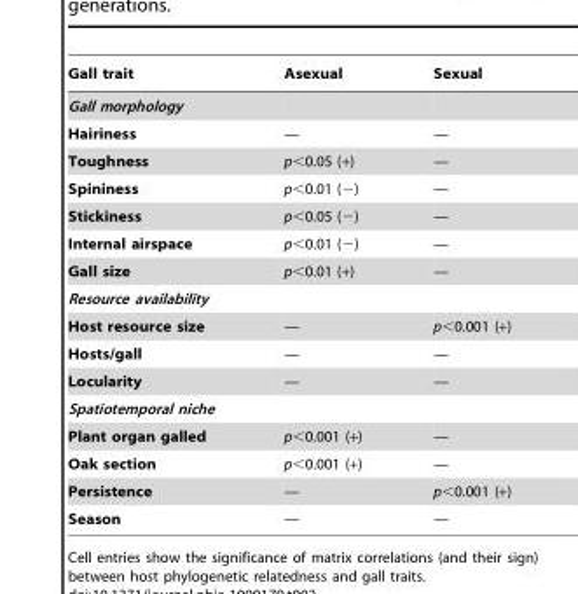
<table><thead><tr><td>Gall trait</td><td>Asexual</td><td>Sexual</td></tr></thead><tbody><tr><td colspan="3">Gall morphology</td></tr><tr><td>Hairiness</td><td>—</td><td>—</td></tr><tr><td>Toughness</td><td>p&lt;0.05 (+)</td><td>—</td></tr><tr><td>Spininess</td><td>p&lt;0.01 (−)</td><td>—</td></tr><tr><td>Stickiness</td><td>p&lt;0.05 (−)</td><td>—</td></tr><tr><td>Internal airspace</td><td>p&lt;0.01 (−)</td><td>—</td></tr><tr><td>Gall size</td><td>p&lt;0.01 (+)</td><td>—</td></tr><tr><td colspan="3">Resource availability</td></tr><tr><td>Host resource size</td><td>—</td><td>p&lt;0.001 (+)</td></tr><tr><td>Hosts/gall</td><td>—</td><td>—</td></tr><tr><td>Locularity</td><td>—</td><td>—</td></tr><tr><td colspan="3">Spatiotemporal niche</td></tr><tr><td>Plant organ galled</td><td>p&lt;0.001 (+)</td><td>—</td></tr><tr><td>Oak section</td><td>p&lt;0.001 (+)</td><td>—</td></tr><tr><td>Persistence</td><td>—</td><td>p&lt;0.001 (+)</td></tr><tr><td>Season</td><td>—</td><td>—</td></tr></tbody></table>